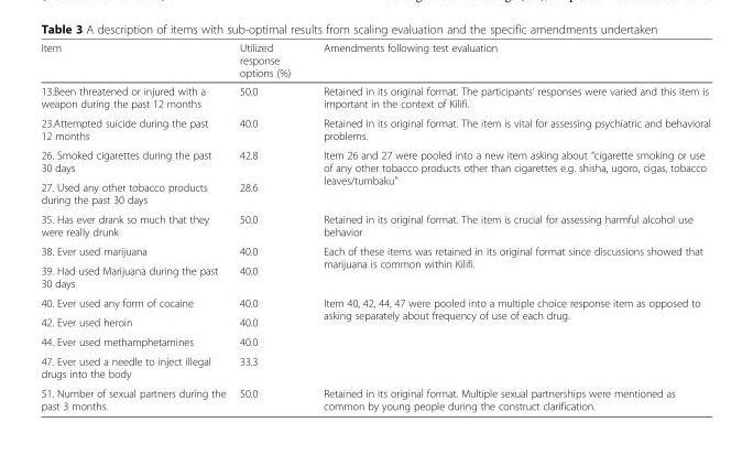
<table><thead><tr><td>Item</td><td>Utilized response options (%)</td><td>Amendments following test evaluation</td></tr></thead><tbody><tr><td>13.Been threatened or injured with a weapon during the past 12 months</td><td>50.0</td><td>Retained in its original format. The participants’ responses were varied and this item is important in the context of Kilifi.</td></tr><tr><td>23.Attempted suicide during the past 12 months</td><td>40.0</td><td>Retained in its original format. The item is vital for assessing psychiatric and behavioral problems.</td></tr><tr><td>26. Smoked cigarettes during the past 30 days</td><td>42.8</td><td rowspan="2">Item 26 and 27 were pooled into a new item asking about “cigarette smoking or use of any other tobacco products other than cigarettes e.g. shisha, ugoro, cigas, tobacco leaves/tumbaku”</td></tr><tr><td>27. Used any other tobacco products during the past 30 days</td><td>28.6</td></tr><tr><td>35. Has ever drank so much that they were really drunk</td><td>50.0</td><td>Retained in its original format. The item is crucial for assessing harmful alcohol use behavior</td></tr><tr><td>38. Ever used marijuana</td><td>40.0</td><td rowspan="2">Each of these items was retained in its original format since discussions showed that marijuana is common within Kilifi.</td></tr><tr><td>39. Had used Marijuana during the past 30 days</td><td>40.0</td></tr><tr><td>40. Ever used any form of cocaine</td><td>40.0</td><td rowspan="4">Item 40, 42, 44, 47 were pooled into a multiple choice response item as opposed to asking separately about frequency of use of each drug.</td></tr><tr><td>42. Ever used heroin</td><td>40.0</td></tr><tr><td>44. Ever used methamphetamines</td><td>40.0</td></tr><tr><td>47. Ever used a needle to inject illegal drugs into the body</td><td>33.3</td></tr><tr><td>51. Number of sexual partners during the past 3 months.</td><td>50.0</td><td>Retained in its original format. Multiple sexual partnerships were mentioned as common by young people during the construct clarification.</td></tr></tbody></table>